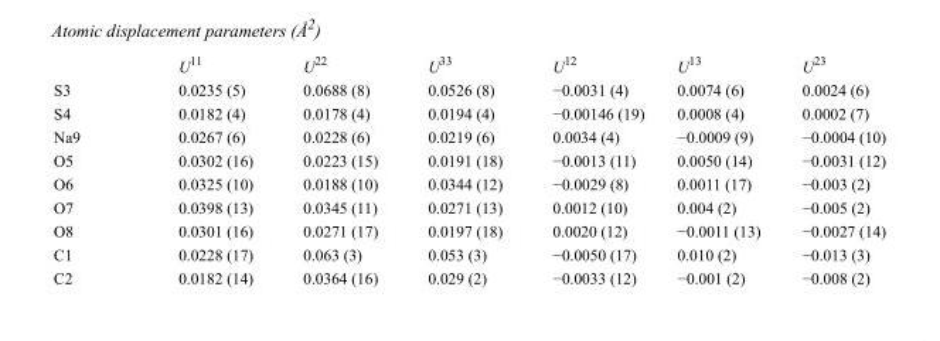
<table><thead><tr><td></td><td>U<sup>11</sup></td><td>U<sup>22</sup></td><td>U<sup>33</sup></td><td>U<sup>12</sup></td><td>U<sup>13</sup></td><td>U<sup>23</sup></td></tr></thead><tbody><tr><td>S3</td><td>0.0235 (5)</td><td>0.0688 (8)</td><td>0.0526 (8)</td><td>−0.0031 (4)</td><td>0.0074 (6)</td><td>0.0024 (6)</td></tr><tr><td>S4</td><td>0.0182 (4)</td><td>0.0178 (4)</td><td>0.0194 (4)</td><td>−0.00146 (19)</td><td>0.0008 (4)</td><td>0.0002 (7)</td></tr><tr><td>Na9</td><td>0.0267 (6)</td><td>0.0228 (6)</td><td>0.0219 (6)</td><td>0.0034 (4)</td><td>−0.0009 (9)</td><td>−0.0004 (10)</td></tr><tr><td>O5</td><td>0.0302 (16)</td><td>0.0223 (15)</td><td>0.0191 (18)</td><td>−0.0013 (11)</td><td>0.0050 (14)</td><td>−0.0031 (12)</td></tr><tr><td>O6</td><td>0.0325 (10)</td><td>0.0188 (10)</td><td>0.0344 (12)</td><td>−0.0029 (8)</td><td>0.0011 (17)</td><td>−0.003 (2)</td></tr><tr><td>O7</td><td>0.0398 (13)</td><td>0.0345 (11)</td><td>0.0271 (13)</td><td>0.0012 (10)</td><td>0.004 (2)</td><td>−0.005 (2)</td></tr><tr><td>O8</td><td>0.0301 (16)</td><td>0.0271 (17)</td><td>0.0197 (18)</td><td>0.0020 (12)</td><td>−0.0011 (13)</td><td>−0.0027 (14)</td></tr><tr><td>C1</td><td>0.0228 (17)</td><td>0.063 (3)</td><td>0.053 (3)</td><td>−0.0050 (17)</td><td>0.010 (2)</td><td>−0.013 (3)</td></tr><tr><td>C2</td><td>0.0182 (14)</td><td>0.0364 (16)</td><td>0.029 (2)</td><td>−0.0033 (12)</td><td>−0.001 (2)</td><td>−0.008 (2)</td></tr></tbody></table>